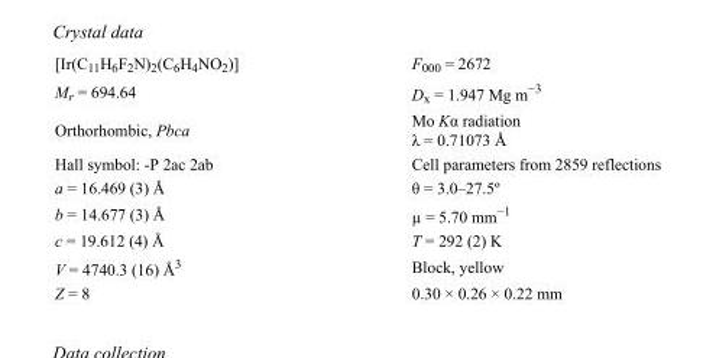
<table><tbody><tr><td>[Ir(C<sub>11</sub>H<sub>6</sub>F<sub>2</sub>N)<sub>2</sub>(C<sub>6</sub>H<sub>4</sub>NO<sub>2</sub>)]</td><td>F000 = 2672</td></tr><tr><td>M<sub>r</sub> = 694.64</td><td>D<sub>x</sub> = 1.947 Mg m<sup>−3</sup></td></tr><tr><td>Orthorhombic, Pbca</td><td>Mo Kα radiation λ = 0.71073 Å</td></tr><tr><td>Hall symbol: -P 2ac 2ab</td><td>Cell parameters from 2859 reflections</td></tr><tr><td>a = 16.469 (3) Å</td><td>θ = 3.0–27.5º</td></tr><tr><td>b = 14.677 (3) Å</td><td>µ = 5.70 mm<sup>−1</sup></td></tr><tr><td>c = 19.612 (4) Å</td><td>T = 292 (2) K</td></tr><tr><td>V = 4740.3 (16) Å<sup>3</sup></td><td>Block, yellow</td></tr><tr><td>Z = 8</td><td>0.30 × 0.26 × 0.22 mm</td></tr></tbody></table>